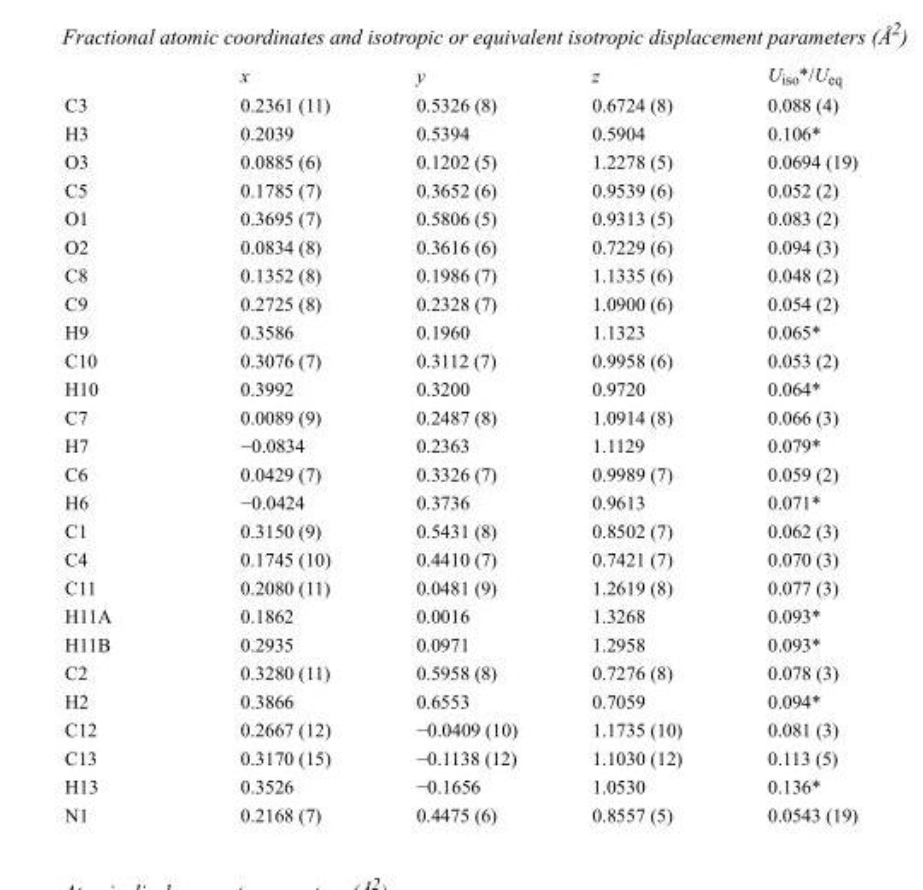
<table><thead><tr><td></td><td>x</td><td>y</td><td>z</td><td>U<sub>iso</sub>*/U<sub>eq</sub></td></tr></thead><tbody><tr><td>C3</td><td>0.2361 (11)</td><td>0.5326 (8)</td><td>0.6724 (8)</td><td>0.088 (4)</td></tr><tr><td>H3</td><td>0.2039</td><td>0.5394</td><td>0.5904</td><td>0.106*</td></tr><tr><td>O3</td><td>0.0885 (6)</td><td>0.1202 (5)</td><td>1.2278 (5)</td><td>0.0694 (19)</td></tr><tr><td>C5</td><td>0.1785 (7)</td><td>0.3652 (6)</td><td>0.9539 (6)</td><td>0.052 (2)</td></tr><tr><td>O1</td><td>0.3695 (7)</td><td>0.5806 (5)</td><td>0.9313 (5)</td><td>0.083 (2)</td></tr><tr><td>O2</td><td>0.0834 (8)</td><td>0.3616 (6)</td><td>0.7229 (6)</td><td>0.094 (3)</td></tr><tr><td>C8</td><td>0.1352 (8)</td><td>0.1986 (7)</td><td>1.1335 (6)</td><td>0.048 (2)</td></tr><tr><td>C9</td><td>0.2725 (8)</td><td>0.2328 (7)</td><td>1.0900 (6)</td><td>0.054 (2)</td></tr><tr><td>H9</td><td>0.3586</td><td>0.1960</td><td>1.1323</td><td>0.065*</td></tr><tr><td>C10</td><td>0.3076 (7)</td><td>0.3112 (7)</td><td>0.9958 (6)</td><td>0.053 (2)</td></tr><tr><td>H10</td><td>0.3992</td><td>0.3200</td><td>0.9720</td><td>0.064*</td></tr><tr><td>C7</td><td>0.0089 (9)</td><td>0.2487 (8)</td><td>1.0914 (8)</td><td>0.066 (3)</td></tr><tr><td>H7</td><td>−0.0834</td><td>0.2363</td><td>1.1129</td><td>0.079*</td></tr><tr><td>C6</td><td>0.0429 (7)</td><td>0.3326 (7)</td><td>0.9989 (7)</td><td>0.059 (2)</td></tr><tr><td>H6</td><td>−0.0424</td><td>0.3736</td><td>0.9613</td><td>0.071*</td></tr><tr><td>C1</td><td>0.3150 (9)</td><td>0.5431 (8)</td><td>0.8502 (7)</td><td>0.062 (3)</td></tr><tr><td>C4</td><td>0.1745 (10)</td><td>0.4410 (7)</td><td>0.7421 (7)</td><td>0.070 (3)</td></tr><tr><td>C11</td><td>0.2080 (11)</td><td>0.0481 (9)</td><td>1.2619 (8)</td><td>0.077 (3)</td></tr><tr><td>H11A</td><td>0.1862</td><td>0.0016</td><td>1.3268</td><td>0.093*</td></tr><tr><td>H11B</td><td>0.2935</td><td>0.0971</td><td>1.2958</td><td>0.093*</td></tr><tr><td>C2</td><td>0.3280 (11)</td><td>0.5958 (8)</td><td>0.7276 (8)</td><td>0.078 (3)</td></tr><tr><td>H2</td><td>0.3866</td><td>0.6553</td><td>0.7059</td><td>0.094*</td></tr><tr><td>C12</td><td>0.2667 (12)</td><td>−0.0409 (10)</td><td>1.1735 (10)</td><td>0.081 (3)</td></tr><tr><td>C13</td><td>0.3170 (15)</td><td>−0.1138 (12)</td><td>1.1030 (12)</td><td>0.113 (5)</td></tr><tr><td>H13</td><td>0.3526</td><td>−0.1656</td><td>1.0530</td><td>0.136*</td></tr><tr><td>N1</td><td>0.2168 (7)</td><td>0.4475 (6)</td><td>0.8557 (5)</td><td>0.0543 (19)</td></tr></tbody></table>